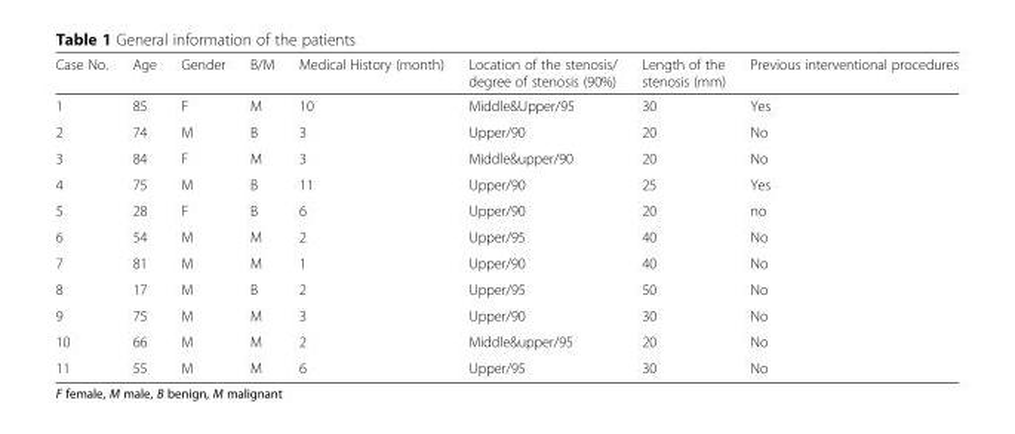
<table><thead><tr><td>Case No.</td><td>Age</td><td>Gender</td><td>B/M</td><td>Medical History (month)</td><td>Location of the stenosis/ degree of stenosis (90%)</td><td>Length of the stenosis (mm)</td><td>Previous interventional procedures</td></tr></thead><tbody><tr><td>1</td><td>85</td><td>F</td><td>M</td><td>10</td><td>Middle&amp;Upper/95</td><td>30</td><td>Yes</td></tr><tr><td>2</td><td>74</td><td>M</td><td>B</td><td>3</td><td>Upper/90</td><td>20</td><td>No</td></tr><tr><td>3</td><td>84</td><td>F</td><td>M</td><td>3</td><td>Middle&amp;upper/90</td><td>20</td><td>No</td></tr><tr><td>4</td><td>75</td><td>M</td><td>B</td><td>11</td><td>Upper/90</td><td>25</td><td>Yes</td></tr><tr><td>5</td><td>28</td><td>F</td><td>B</td><td>6</td><td>Upper/90</td><td>20</td><td>no</td></tr><tr><td>6</td><td>54</td><td>M</td><td>M</td><td>2</td><td>Upper/95</td><td>40</td><td>No</td></tr><tr><td>7</td><td>81</td><td>M</td><td>M</td><td>1</td><td>Upper/90</td><td>40</td><td>No</td></tr><tr><td>8</td><td>17</td><td>M</td><td>B</td><td>2</td><td>Upper/95</td><td>50</td><td>No</td></tr><tr><td>9</td><td>75</td><td>M</td><td>M</td><td>3</td><td>Upper/90</td><td>30</td><td>No</td></tr><tr><td>10</td><td>66</td><td>M</td><td>M</td><td>2</td><td>Middle&amp;upper/95</td><td>20</td><td>No</td></tr><tr><td>11</td><td>55</td><td>M</td><td>M</td><td>6</td><td>Upper/95</td><td>30</td><td>No</td></tr></tbody></table>